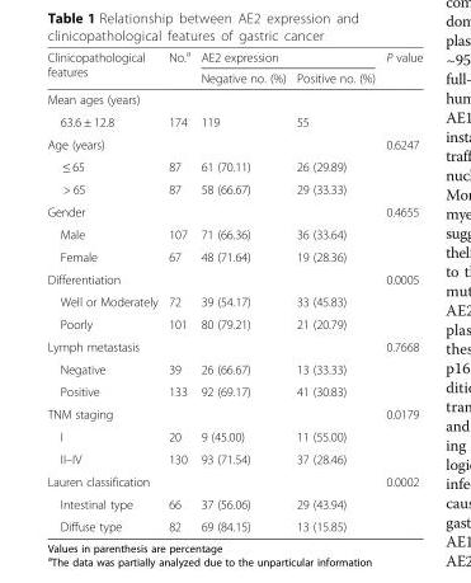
<table><thead><tr><td rowspan="2">Clinicopathological features</td><td rowspan="2">No.<sup>a</sup></td><td colspan="2">AE2 expression</td><td rowspan="2">P value</td></tr><tr><td>Negative no. (%)</td><td>Positive no. (%)</td></tr></thead><tbody><tr><td colspan="5">Mean ages (years)</td></tr><tr><td>63.6 ± 12.8</td><td>174</td><td>119</td><td>55</td><td></td></tr><tr><td>Age (years)</td><td></td><td></td><td></td><td>0.6247</td></tr><tr><td>≤ 65</td><td>87</td><td>61 (70.11)</td><td>26 (29.89)</td><td></td></tr><tr><td>&gt; 65</td><td>87</td><td>58 (66.67)</td><td>29 (33.33)</td><td></td></tr><tr><td>Gender</td><td></td><td></td><td></td><td>0.4655</td></tr><tr><td>Male</td><td>107</td><td>71 (66.36)</td><td>36 (33.64)</td><td></td></tr><tr><td>Female</td><td>67</td><td>48 (71.64)</td><td>19 (28.36)</td><td></td></tr><tr><td>Differentiation</td><td></td><td></td><td></td><td>0.0005</td></tr><tr><td>Well or Moderately</td><td>72</td><td>39 (54.17)</td><td>33 (45.83)</td><td></td></tr><tr><td>Poorly</td><td>101</td><td>80 (79.21)</td><td>21 (20.79)</td><td></td></tr><tr><td>Lymph metastasis</td><td></td><td></td><td></td><td>0.7668</td></tr><tr><td>Negative</td><td>39</td><td>26 (66.67)</td><td>13 (33.33)</td><td></td></tr><tr><td>Positive</td><td>133</td><td>92 (69.17)</td><td>41 (30.83)</td><td></td></tr><tr><td>TNM staging</td><td></td><td></td><td></td><td>0.0179</td></tr><tr><td>I</td><td>20</td><td>9 (45.00)</td><td>11 (55.00)</td><td></td></tr><tr><td>II–IV</td><td>130</td><td>93 (71.54)</td><td>37 (28.46)</td><td></td></tr><tr><td>Lauren classification</td><td></td><td></td><td></td><td>0.0002</td></tr><tr><td>Intestinal type</td><td>66</td><td>37 (56.06)</td><td>29 (43.94)</td><td></td></tr><tr><td>Diffuse type</td><td>82</td><td>69 (84.15)</td><td>13 (15.85)</td><td></td></tr></tbody></table>